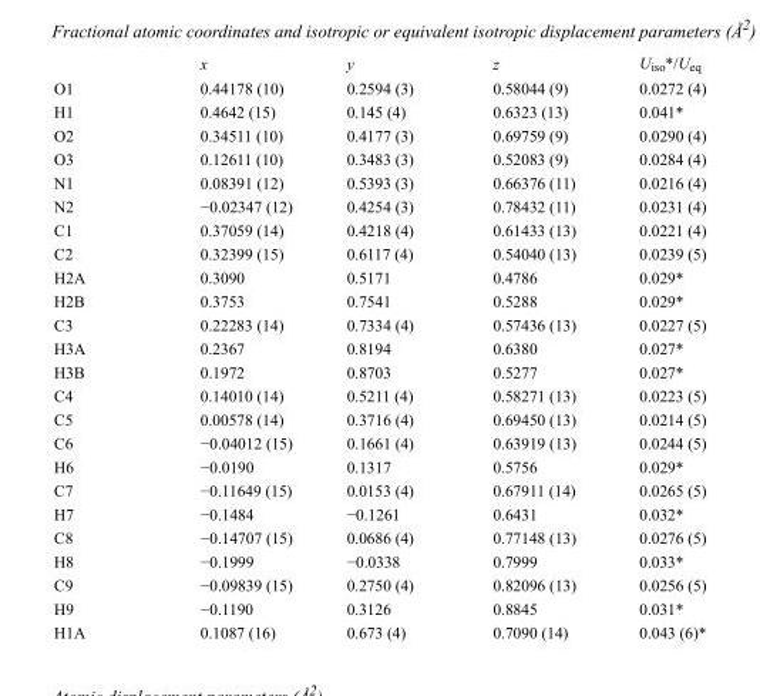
<table><thead><tr><td></td><td>x</td><td>y</td><td>z</td><td>U<sub>iso</sub>*/U<sub>eq</sub></td></tr></thead><tbody><tr><td>O1</td><td>0.44178 (10)</td><td>0.2594 (3)</td><td>0.58044 (9)</td><td>0.0272 (4)</td></tr><tr><td>H1</td><td>0.4642 (15)</td><td>0.145 (4)</td><td>0.6323 (13)</td><td>0.041*</td></tr><tr><td>O2</td><td>0.34511 (10)</td><td>0.4177 (3)</td><td>0.69759 (9)</td><td>0.0290 (4)</td></tr><tr><td>O3</td><td>0.12611 (10)</td><td>0.3483 (3)</td><td>0.52083 (9)</td><td>0.0284 (4)</td></tr><tr><td>N1</td><td>0.08391 (12)</td><td>0.5393 (3)</td><td>0.66376 (11)</td><td>0.0216 (4)</td></tr><tr><td>N2</td><td>−0.02347 (12)</td><td>0.4254 (3)</td><td>0.78432 (11)</td><td>0.0231 (4)</td></tr><tr><td>C1</td><td>0.37059 (14)</td><td>0.4218 (4)</td><td>0.61433 (13)</td><td>0.0221 (4)</td></tr><tr><td>C2</td><td>0.32399 (15)</td><td>0.6117 (4)</td><td>0.54040 (13)</td><td>0.0239 (5)</td></tr><tr><td>H2A</td><td>0.3090</td><td>0.5171</td><td>0.4786</td><td>0.029*</td></tr><tr><td>H2B</td><td>0.3753</td><td>0.7541</td><td>0.5288</td><td>0.029*</td></tr><tr><td>C3</td><td>0.22283 (14)</td><td>0.7334 (4)</td><td>0.57436 (13)</td><td>0.0227 (5)</td></tr><tr><td>H3A</td><td>0.2367</td><td>0.8194</td><td>0.6380</td><td>0.027*</td></tr><tr><td>H3B</td><td>0.1972</td><td>0.8703</td><td>0.5277</td><td>0.027*</td></tr><tr><td>C4</td><td>0.14010 (14)</td><td>0.5211 (4)</td><td>0.58271 (13)</td><td>0.0223 (5)</td></tr><tr><td>C5</td><td>0.00578 (14)</td><td>0.3716 (4)</td><td>0.69450 (13)</td><td>0.0214 (5)</td></tr><tr><td>C6</td><td>−0.04012 (15)</td><td>0.1661 (4)</td><td>0.63919 (13)</td><td>0.0244 (5)</td></tr><tr><td>H6</td><td>−0.0190</td><td>0.1317</td><td>0.5756</td><td>0.029*</td></tr><tr><td>C7</td><td>−0.11649 (15)</td><td>0.0153 (4)</td><td>0.67911 (14)</td><td>0.0265 (5)</td></tr><tr><td>H7</td><td>−0.1484</td><td>−0.1261</td><td>0.6431</td><td>0.032*</td></tr><tr><td>C8</td><td>−0.14707 (15)</td><td>0.0686 (4)</td><td>0.77148 (13)</td><td>0.0276 (5)</td></tr><tr><td>H8</td><td>−0.1999</td><td>−0.0338</td><td>0.7999</td><td>0.033*</td></tr><tr><td>C9</td><td>−0.09839 (15)</td><td>0.2750 (4)</td><td>0.82096 (13)</td><td>0.0256 (5)</td></tr><tr><td>H9</td><td>−0.1190</td><td>0.3126</td><td>0.8845</td><td>0.031*</td></tr><tr><td>H1A</td><td>0.1087 (16)</td><td>0.673 (4)</td><td>0.7090 (14)</td><td>0.043 (6)*</td></tr></tbody></table>